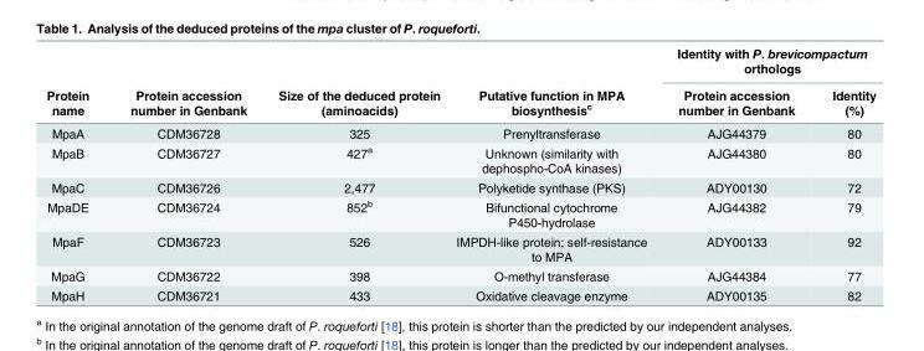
<table><thead><tr><td rowspan="2">Protein name</td><td rowspan="2">Protein accession number in Genbank</td><td rowspan="2">Size of the deduced protein (aminoacids)</td><td rowspan="2">Putative function in MPA biosynthesis<sup>c</sup></td><td colspan="2">Identity with P. brevicompactum orthologs</td></tr><tr><td>Protein accession number in Genbank</td><td>Identity (%)</td></tr></thead><tbody><tr><td>MpaA</td><td>CDM36728</td><td>325</td><td>Prenyltransferase</td><td>AJG44379</td><td>80</td></tr><tr><td>MpaB</td><td>CDM36727</td><td>427<sup>a</sup></td><td>Unknown (similarity with dephospho-CoA kinases)</td><td>AJG44380</td><td>80</td></tr><tr><td>MpaC</td><td>CDM36726</td><td>2,477</td><td>Polyketide synthase (PKS)</td><td>ADY00130</td><td>72</td></tr><tr><td>MpaDE</td><td>CDM36724</td><td>852<sup>b</sup></td><td>Bifunctional cytochrome P450-hydrolase</td><td>AJG44382</td><td>79</td></tr><tr><td>MpaF</td><td>CDM36723</td><td>526</td><td>IMPDH-like protein; self-resistance to MPA</td><td>ADY00133</td><td>92</td></tr><tr><td>MpaG</td><td>CDM36722</td><td>398</td><td>O-methyl transferase</td><td>AJG44384</td><td>77</td></tr><tr><td>MpaH</td><td>CDM36721</td><td>433</td><td>Oxidative cleavage enzyme</td><td>ADY00135</td><td>82</td></tr></tbody></table>